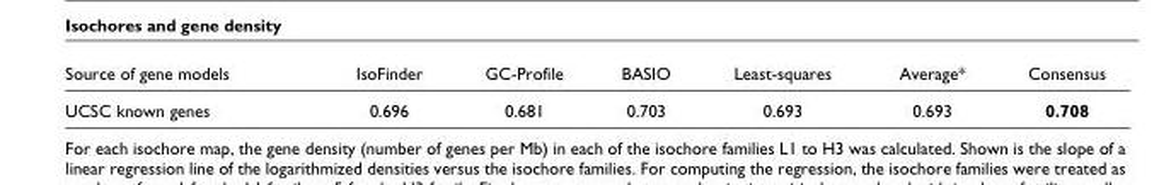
<table><thead><tr><td>Source of gene models</td><td>IsoFinder</td><td>GC-Profile</td><td>BASIO</td><td>Least-squares</td><td>Average*</td><td>Consensus</td></tr></thead><tbody><tr><td>UCSC known genes</td><td>0.696</td><td>0.681</td><td>0.703</td><td>0.693</td><td>0.693</td><td>0.708</td></tr></tbody></table>